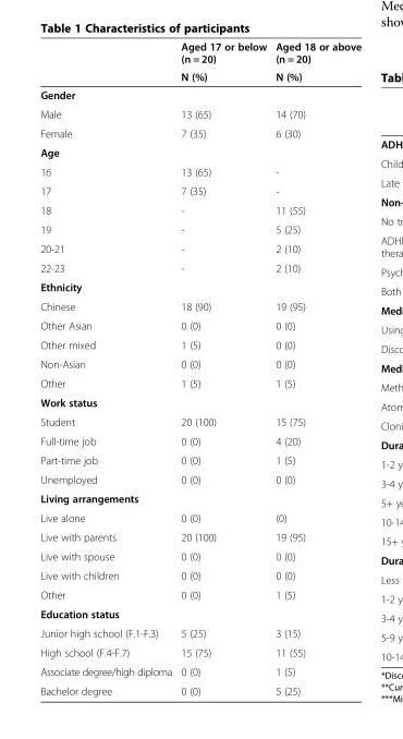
<table><thead><tr><td rowspan="2"></td><td rowspan="2">Aged 17 or below (n = 20) N (%)</td><td rowspan="2">Aged 18 or above (n = 20) N (%)</td></tr><tr></tr></thead><tbody><tr><td colspan="3">Gender</td></tr><tr><td>Male</td><td>13 (65)</td><td>14 (70)</td></tr><tr><td>Female</td><td>7 (35)</td><td>6 (30)</td></tr><tr><td colspan="3">Age</td></tr><tr><td>16</td><td>13 (65)</td><td>-</td></tr><tr><td>17</td><td>7 (35)</td><td>-</td></tr><tr><td>18</td><td>-</td><td>11 (55)</td></tr><tr><td>19</td><td>-</td><td>5 (25)</td></tr><tr><td>20-21</td><td>-</td><td>2 (10)</td></tr><tr><td>22-23</td><td>-</td><td>2 (10)</td></tr><tr><td colspan="3">Ethnicity</td></tr><tr><td>Chinese</td><td>18 (90)</td><td>19 (95)</td></tr><tr><td>Other Asian</td><td>0 (0)</td><td>0 (0)</td></tr><tr><td>Other mixed</td><td>1 (5)</td><td>0 (0)</td></tr><tr><td>Non-Asian</td><td>0 (0)</td><td>0 (0)</td></tr><tr><td>Other</td><td>1 (5)</td><td>1 (5)</td></tr><tr><td colspan="3">Work status</td></tr><tr><td>Student</td><td>20 (100)</td><td>15 (75)</td></tr><tr><td>Full-time job</td><td>0 (0)</td><td>4 (20)</td></tr><tr><td>Part-time job</td><td>0 (0)</td><td>1 (5)</td></tr><tr><td>Unemployed</td><td>0 (0)</td><td>0 (0)</td></tr><tr><td colspan="3">Living arrangements</td></tr><tr><td>Live alone</td><td>0 (0)</td><td>(0)</td></tr><tr><td>Live with parents</td><td>20 (100)</td><td>19 (95)</td></tr><tr><td>Live with spouse</td><td>0 (0)</td><td>0 (0)</td></tr><tr><td>Live with children</td><td>0 (0)</td><td>0 (0)</td></tr><tr><td>Other</td><td>0 (0)</td><td>1 (5)</td></tr><tr><td colspan="3">Education status</td></tr><tr><td>Junior high school (F.1-F.3)</td><td>5 (25)</td><td>3 (15)</td></tr><tr><td>High school (F.4-F.7)</td><td>15 (75)</td><td>11 (55)</td></tr><tr><td>Associate degree/high diploma</td><td>0 (0)</td><td>1 (5)</td></tr><tr><td>Bachelor degree</td><td>0 (0)</td><td>5 (25)</td></tr></tbody></table>